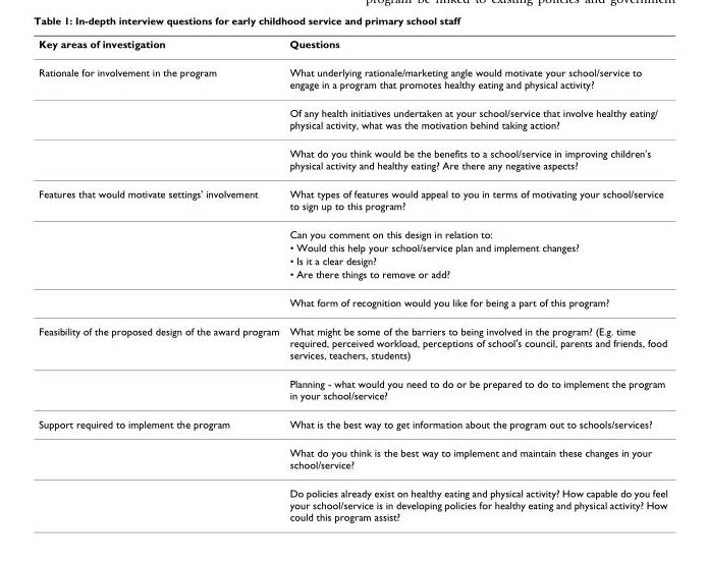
<table><thead><tr><td>Key areas of investigation</td><td>Questions</td></tr></thead><tbody><tr><td rowspan="3">Rationale for involvement in the program</td><td>What underlying rationale/marketing angle would motivate your school/service to engage in a program that promotes healthy eating and physical activity?</td></tr><tr><td>Of any health initiatives undertaken at your school/service that involve healthy eating/ physical activity, what was the motivation behind taking action?</td></tr><tr><td>What do you think would be the benefits to a school/service in improving children&#x27;s physical activity and healthy eating? Are there any negative aspects?</td></tr><tr><td rowspan="6">Features that would motivate settings&#x27; involvement</td><td>What types of features would appeal to you in terms of motivating your school/service to sign up to this program?</td></tr><tr><td>Can you comment on this design in relation to:</td></tr><tr><td>• Would this help your school/service plan and implement changes?</td></tr><tr><td>• Is it a clear design?</td></tr><tr><td>• Are there things to remove or add?</td></tr><tr><td>What form of recognition would you like for being a part of this program?</td></tr><tr><td rowspan="2">Feasibility of the proposed design of the award program</td><td>What might be some of the barriers to being involved in the program? (E.g. time required, perceived workload, perceptions of school&#x27;s council, parents and friends, food services, teachers, students)</td></tr><tr><td>Planning - what would you need to do or be prepared to do to implement the program in your school/service?</td></tr><tr><td rowspan="3">Support required to implement the program</td><td>What is the best way to get information about the program out to schools/services?</td></tr><tr><td>What do you think is the best way to implement and maintain these changes in your school/service?</td></tr><tr><td>Do policies already exist on healthy eating and physical activity? How capable do you feel your school/service is in developing policies for healthy eating and physical activity? How could this program assist?</td></tr></tbody></table>